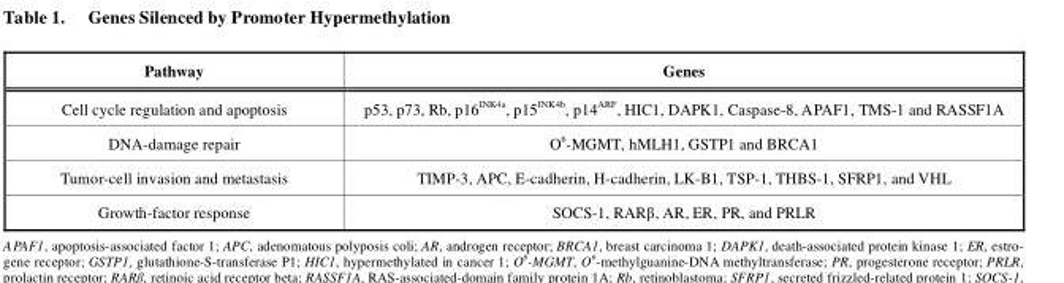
<table><thead><tr><td>Pathway</td><td>Genes</td></tr></thead><tbody><tr><td>Cell cycle regulation and apoptosis</td><td>p53, p73, Rb, p16<sup>INK4a</sup>, p15<sup>INK4b</sup>, p14<sup>ARF</sup>, HIC1, DAPK1, Caspase-8, APAF1, TMS-1 and RASSF1A</td></tr><tr><td>DNA-damage repair</td><td>O<sup>6</sup>-MGMT, hMLH1, GSTP1 and BRCA1</td></tr><tr><td>Tumor-cell invasion and metastasis</td><td>TIMP-3, APC, E-cadherin, H-cadherin, LK-B1, TSP-1, THBS-1, SFRP1, and VHL</td></tr><tr><td>Growth-factor response</td><td>SOCS-1, RARβ, AR, ER, PR, and PRLR</td></tr></tbody></table>